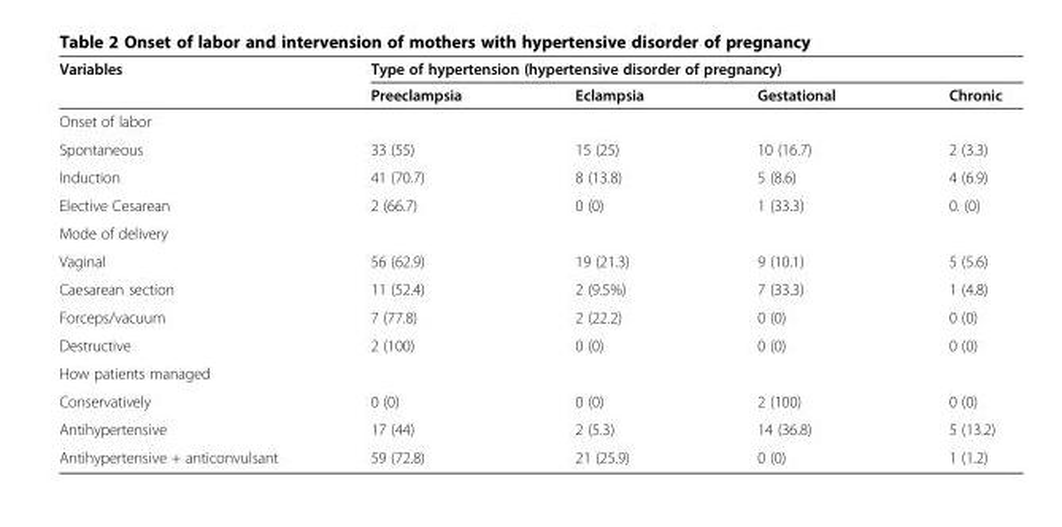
<table><thead><tr><td rowspan="2">Variables</td><td colspan="4">Type of hypertension (hypertensive disorder of pregnancy)</td></tr><tr><td>Preeclampsia</td><td>Eclampsia</td><td>Gestational</td><td>Chronic</td></tr></thead><tbody><tr><td colspan="5">Onset of labor</td></tr><tr><td>Spontaneous</td><td>33 (55)</td><td>15 (25)</td><td>10 (16.7)</td><td>2 (3.3)</td></tr><tr><td>Induction</td><td>41 (70.7)</td><td>8 (13.8)</td><td>5 (8.6)</td><td>4 (6.9)</td></tr><tr><td>Elective Cesarean</td><td>2 (66.7)</td><td>0 (0)</td><td>1 (33.3)</td><td>0. (0)</td></tr><tr><td colspan="5">Mode of delivery</td></tr><tr><td>Vaginal</td><td>56 (62.9)</td><td>19 (21.3)</td><td>9 (10.1)</td><td>5 (5.6)</td></tr><tr><td>Caesarean section</td><td>11 (52.4)</td><td>2 (9.5%)</td><td>7 (33.3)</td><td>1 (4.8)</td></tr><tr><td>Forceps/vacuum</td><td>7 (77.8)</td><td>2 (22.2)</td><td>0 (0)</td><td>0 (0)</td></tr><tr><td>Destructive</td><td>2 (100)</td><td>0 (0)</td><td>0 (0)</td><td>0 (0)</td></tr><tr><td colspan="5">How patients managed</td></tr><tr><td>Conservatively</td><td>0 (0)</td><td>0 (0)</td><td>2 (100)</td><td>0 (0)</td></tr><tr><td>Antihypertensive</td><td>17 (44)</td><td>2 (5.3)</td><td>14 (36.8)</td><td>5 (13.2)</td></tr><tr><td>Antihypertensive + anticonvulsant</td><td>59 (72.8)</td><td>21 (25.9)</td><td>0 (0)</td><td>1 (1.2)</td></tr></tbody></table>